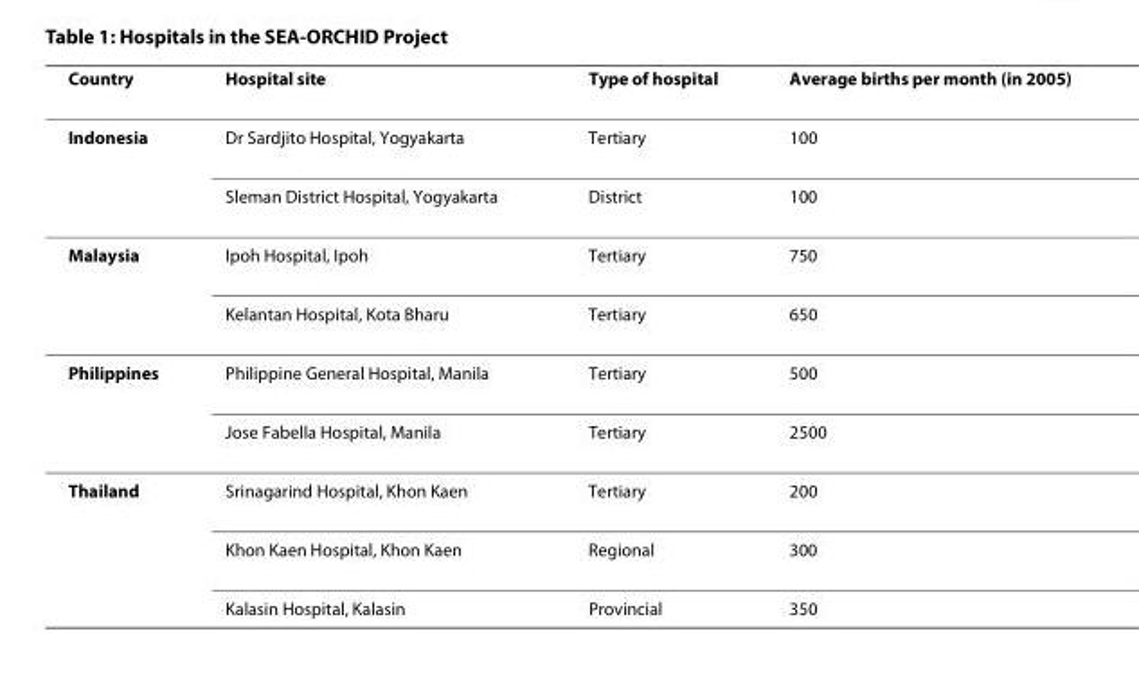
<table><thead><tr><td>Country</td><td>Hospital site</td><td>Type of hospital</td><td>Average births per month (in 2005)</td></tr></thead><tbody><tr><td rowspan="2">Indonesia</td><td>Dr Sardjito Hospital, Yogyakarta</td><td>Tertiary</td><td>100</td></tr><tr><td>Sleman District Hospital, Yogyakarta</td><td>District</td><td>100</td></tr><tr><td rowspan="2">Malaysia</td><td>Ipoh Hospital, Ipoh</td><td>Tertiary</td><td>750</td></tr><tr><td>Kelantan Hospital, Kota Bharu</td><td>Tertiary</td><td>650</td></tr><tr><td rowspan="2">Philippines</td><td>Philippine General Hospital, Manila</td><td>Tertiary</td><td>500</td></tr><tr><td>Jose Fabella Hospital, Manila</td><td>Tertiary</td><td>2500</td></tr><tr><td rowspan="3">Thailand</td><td>Srinagarind Hospital, Khon Kaen</td><td>Tertiary</td><td>200</td></tr><tr><td>Khon Kaen Hospital, Khon Kaen</td><td>Regional</td><td>300</td></tr><tr><td>Kalasin Hospital, Kalasin</td><td>Provincial</td><td>350</td></tr></tbody></table>